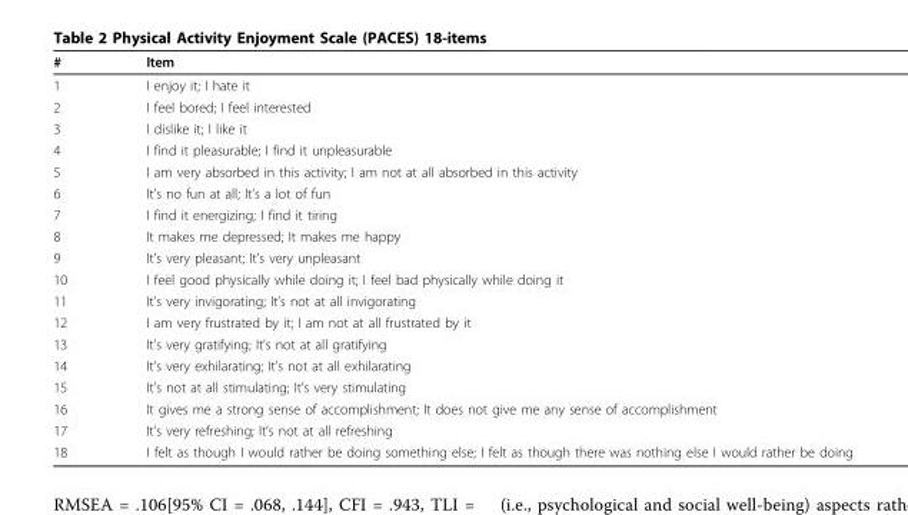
<table><thead><tr><td>#</td><td>Item</td></tr></thead><tbody><tr><td>1</td><td>I enjoy it; I hate it</td></tr><tr><td>2</td><td>I feel bored; I feel interested</td></tr><tr><td>3</td><td>I dislike it; I like it</td></tr><tr><td>4</td><td>I find it pleasurable; I find it unpleasurable</td></tr><tr><td>5</td><td>I am very absorbed in this activity; I am not at all absorbed in this activity</td></tr><tr><td>6</td><td>It’s no fun at all; It’s a lot of fun</td></tr><tr><td>7</td><td>I find it energizing; I find it tiring</td></tr><tr><td>8</td><td>It makes me depressed; It makes me happy</td></tr><tr><td>9</td><td>It’s very pleasant; It’s very unpleasant</td></tr><tr><td>10</td><td>I feel good physically while doing it; I feel bad physically while doing it</td></tr><tr><td>11</td><td>It’s very invigorating; It’s not at all invigorating</td></tr><tr><td>12</td><td>I am very frustrated by it; I am not at all frustrated by it</td></tr><tr><td>13</td><td>It’s very gratifying; It’s not at all gratifying</td></tr><tr><td>14</td><td>It’s very exhilarating; It’s not at all exhilarating</td></tr><tr><td>15</td><td>It’s not at all stimulating; It’s very stimulating</td></tr><tr><td>16</td><td>It gives me a strong sense of accomplishment; It does not give me any sense of accomplishment</td></tr><tr><td>17</td><td>It’s very refreshing; It’s not at all refreshing</td></tr><tr><td>18</td><td>I felt as though I would rather be doing something else; I felt as though there was nothing else I would rather be doing</td></tr></tbody></table>